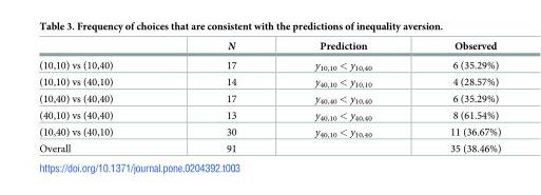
<table><thead><tr><td></td><td>N</td><td>Prediction</td><td>Observed</td></tr></thead><tbody><tr><td>(10,10) vs (10,40)</td><td>17</td><td>y<sub>10,10</sub> &lt; y<sub>10,40</sub></td><td>6 (35.29%)</td></tr><tr><td>(10,10) vs (40,10)</td><td>14</td><td>y<sub>40,10</sub> &lt; y<sub>10,10</sub></td><td>4 (28.57%)</td></tr><tr><td>(10,40) vs (40,40)</td><td>17</td><td>y<sub>40,40</sub> &lt; y<sub>10,40</sub></td><td>6 (35.29%)</td></tr><tr><td>(40,10) vs (40,40)</td><td>13</td><td>y<sub>40,10</sub> &lt; y<sub>40,40</sub></td><td>8 (61.54%)</td></tr><tr><td>(10,40) vs (40,10)</td><td>30</td><td>y<sub>40,10</sub> &lt; y<sub>10,40</sub></td><td>11 (36.67%)</td></tr><tr><td>Overall</td><td>91</td><td></td><td>35 (38.46%)</td></tr></tbody></table>